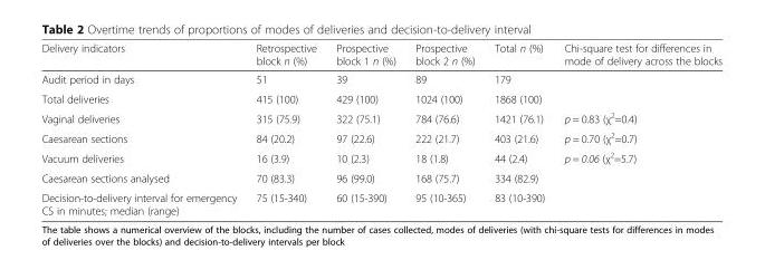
<table><thead><tr><td>Delivery indicators</td><td>Retrospective block n (%)</td><td>Prospective block 1 n (%)</td><td>Prospective block 2 n (%)</td><td>Total n (%)</td><td>Chi-square test for differences in mode of delivery across the blocks</td></tr></thead><tbody><tr><td>Audit period in days</td><td>51</td><td>39</td><td>89</td><td>179</td><td></td></tr><tr><td>Total deliveries</td><td>415 (100)</td><td>429 (100)</td><td>1024 (100)</td><td>1868 (100)</td><td></td></tr><tr><td>Vaginal deliveries</td><td>315 (75.9)</td><td>322 (75.1)</td><td>784 (76.6)</td><td>1421 (76.1)</td><td>p = 0.83 (χ<sup>2</sup>=0.4)</td></tr><tr><td>Caesarean sections</td><td>84 (20.2)</td><td>97 (22.6)</td><td>222 (21.7)</td><td>403 (21.6)</td><td>p = 0.70 (χ<sup>2</sup>=0.7)</td></tr><tr><td>Vacuum deliveries</td><td>16 (3.9)</td><td>10 (2.3)</td><td>18 (1.8)</td><td>44 (2.4)</td><td>p = 0.06 (χ<sup>2</sup>=5.7)</td></tr><tr><td>Caesarean sections analysed</td><td>70 (83.3)</td><td>96 (99.0)</td><td>168 (75.7)</td><td>334 (82.9)</td><td></td></tr><tr><td>Decision-to-delivery interval for emergency CS in minutes; median (range)</td><td>75 (15-340)</td><td>60 (15-390)</td><td>95 (10-365)</td><td>83 (10-390)</td><td></td></tr></tbody></table>